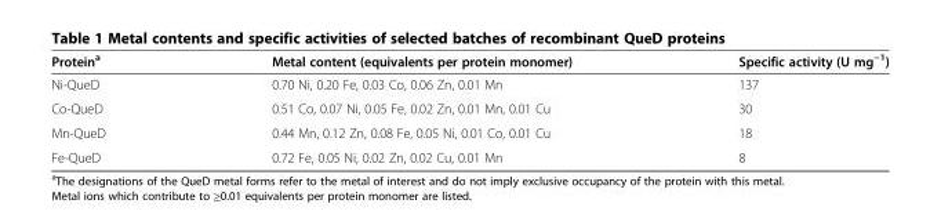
<table><thead><tr><td>Protein<sup>a</sup></td><td>Metal content (equivalents per protein monomer)</td><td>Specific activity (U mg<sup>−1</sup>)</td></tr></thead><tbody><tr><td>Ni-QueD</td><td>0.70 Ni, 0.20 Fe, 0.03 Co, 0.06 Zn, 0.01 Mn</td><td>137</td></tr><tr><td>Co-QueD</td><td>0.51 Co, 0.07 Ni, 0.05 Fe, 0.02 Zn, 0.01 Mn, 0.01 Cu</td><td>30</td></tr><tr><td>Mn-QueD</td><td>0.44 Mn, 0.12 Zn, 0.08 Fe, 0.05 Ni, 0.01 Co, 0.01 Cu</td><td>18</td></tr><tr><td>Fe-QueD</td><td>0.72 Fe, 0.05 Ni, 0.02 Zn, 0.02 Cu, 0.01 Mn</td><td>8</td></tr></tbody></table>